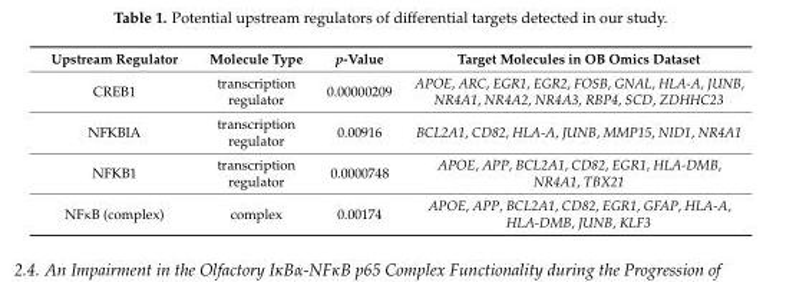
<table><thead><tr><td>Upstream Regulator</td><td>Molecule Type</td><td>p-Value</td><td>Target Molecules in OB Omics Dataset</td></tr></thead><tbody><tr><td>CREB1</td><td>transcription regulator</td><td>0.00000209</td><td>APOE, ARC, EGR1, EGR2, FOSB, GNAL, HLA-A, JUNB, NR4A1, NR4A2, NR4A3, RBP4, SCD, ZDHHC23</td></tr><tr><td>NFKBIA</td><td>transcription regulator</td><td>0.00916</td><td>BCL2A1, CD82, HLA-A, JUNB, MMP15, NID1, NR4A1</td></tr><tr><td>NFKB1</td><td>transcription regulator</td><td>0.0000748</td><td>APOE, APP, BCL2A1, CD82, EGR1, HLA-DMB, NR4A1, TBX21</td></tr><tr><td>NFκB (complex)</td><td>complex</td><td>0.00174</td><td>APOE, APP, BCL2A1, CD82, EGR1, GFAP, HLA-A, HLA-DMB, JUNB, KLF3</td></tr></tbody></table>